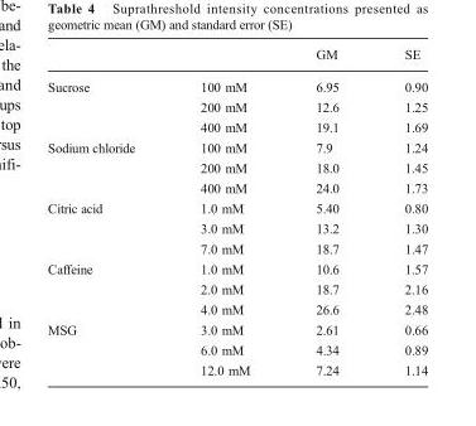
<table><thead><tr><td></td><td></td><td>GM</td><td>SE</td></tr></thead><tbody><tr><td rowspan="3">Sucrose</td><td>100 mM</td><td>6.95</td><td>0.90</td></tr><tr><td>200 mM</td><td>12.6</td><td>1.25</td></tr><tr><td>400 mM</td><td>19.1</td><td>1.69</td></tr><tr><td rowspan="3">Sodium chloride</td><td>100 mM</td><td>7.9</td><td>1.24</td></tr><tr><td>200 mM</td><td>18.0</td><td>1.45</td></tr><tr><td>400 mM</td><td>24.0</td><td>1.73</td></tr><tr><td rowspan="3">Citric acid</td><td>1.0 mM</td><td>5.40</td><td>0.80</td></tr><tr><td>3.0 mM</td><td>13.2</td><td>1.30</td></tr><tr><td>7.0 mM</td><td>18.7</td><td>1.47</td></tr><tr><td rowspan="3">Caffeine</td><td>1.0 mM</td><td>10.6</td><td>1.57</td></tr><tr><td>2.0 mM</td><td>18.7</td><td>2.16</td></tr><tr><td>4.0 mM</td><td>26.6</td><td>2.48</td></tr><tr><td rowspan="3">MSG</td><td>3.0 mM</td><td>2.61</td><td>0.66</td></tr><tr><td>6.0 mM</td><td>4.34</td><td>0.89</td></tr><tr><td>12.0 mM</td><td>7.24</td><td>1.14</td></tr></tbody></table>